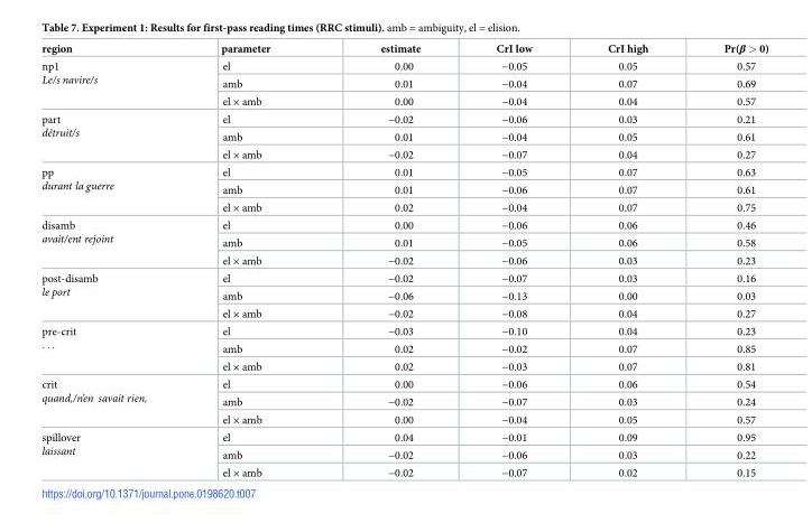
<table><thead><tr><td>region</td><td>parameter</td><td>estimate</td><td>CrI low</td><td>CrI high</td><td>Pr(β &gt; 0)</td></tr></thead><tbody><tr><td rowspan="3">np1 Le/s navire/s</td><td>el</td><td>0.00</td><td>−0.05</td><td>0.05</td><td>0.57</td></tr><tr><td>amb</td><td>0.01</td><td>−0.04</td><td>0.07</td><td>0.69</td></tr><tr><td>el × amb</td><td>0.00</td><td>−0.04</td><td>0.04</td><td>0.57</td></tr><tr><td rowspan="3">part détruit/s</td><td>el</td><td>−0.02</td><td>−0.06</td><td>0.03</td><td>0.21</td></tr><tr><td>amb</td><td>0.01</td><td>−0.04</td><td>0.05</td><td>0.61</td></tr><tr><td>el × amb</td><td>−0.02</td><td>−0.07</td><td>0.04</td><td>0.27</td></tr><tr><td rowspan="3">pp durant la guerre</td><td>el</td><td>0.01</td><td>−0.05</td><td>0.07</td><td>0.63</td></tr><tr><td>amb</td><td>0.01</td><td>−0.06</td><td>0.07</td><td>0.61</td></tr><tr><td>el × amb</td><td>0.02</td><td>−0.04</td><td>0.07</td><td>0.75</td></tr><tr><td rowspan="3">disamb avait/ent rejoint</td><td>el</td><td>0.00</td><td>−0.06</td><td>0.06</td><td>0.46</td></tr><tr><td>amb</td><td>0.01</td><td>−0.05</td><td>0.06</td><td>0.58</td></tr><tr><td>el × amb</td><td>−0.02</td><td>−0.06</td><td>0.03</td><td>0.23</td></tr><tr><td rowspan="3">post-disamb le port</td><td>el</td><td>−0.02</td><td>−0.07</td><td>0.03</td><td>0.16</td></tr><tr><td>amb</td><td>−0.06</td><td>−0.13</td><td>0.00</td><td>0.03</td></tr><tr><td>el × amb</td><td>−0.02</td><td>−0.08</td><td>0.04</td><td>0.27</td></tr><tr><td rowspan="3">pre-crit . . .</td><td>el</td><td>−0.03</td><td>−0.10</td><td>0.04</td><td>0.23</td></tr><tr><td>amb</td><td>0.02</td><td>−0.02</td><td>0.07</td><td>0.85</td></tr><tr><td>el × amb</td><td>0.02</td><td>−0.03</td><td>0.07</td><td>0.81</td></tr><tr><td rowspan="3">crit quand,/n’en savait rien,</td><td>el</td><td>0.00</td><td>−0.06</td><td>0.06</td><td>0.54</td></tr><tr><td>amb</td><td>−0.02</td><td>−0.07</td><td>0.03</td><td>0.24</td></tr><tr><td>el × amb</td><td>0.00</td><td>−0.04</td><td>0.05</td><td>0.57</td></tr><tr><td rowspan="3">spillover laissant</td><td>el</td><td>0.04</td><td>−0.01</td><td>0.09</td><td>0.95</td></tr><tr><td>amb</td><td>−0.02</td><td>−0.06</td><td>0.03</td><td>0.22</td></tr><tr><td>el × amb</td><td>−0.02</td><td>−0.07</td><td>0.02</td><td>0.15</td></tr></tbody></table>